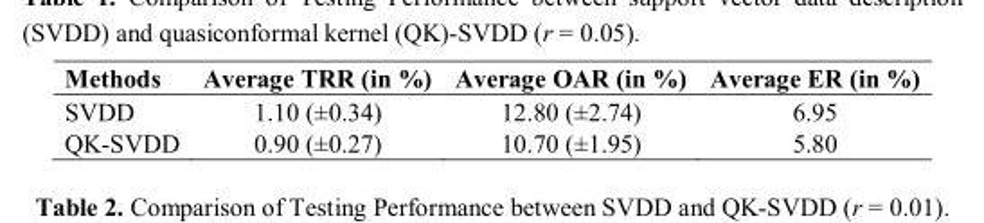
<table><thead><tr><td>Methods</td><td>Average TRR (in %)</td><td>Average OAR (in %)</td><td>Average ER (in %)</td></tr></thead><tbody><tr><td>SVDD</td><td>1.10 (±0.34)</td><td>12.80 (±2.74)</td><td>6.95</td></tr><tr><td>QK-SVDD</td><td>0.90 (±0.27)</td><td>10.70 (±1.95)</td><td>5.80</td></tr></tbody></table>